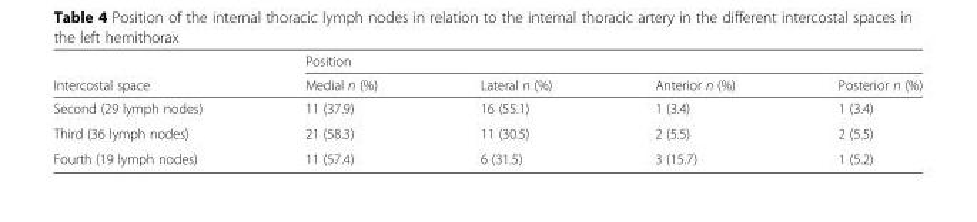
<table><thead><tr><td rowspan="2">Intercostal space</td><td colspan="4">Position</td></tr><tr><td>Medial n (%)</td><td>Lateral n (%)</td><td>Anterior n (%)</td><td>Posterior n (%)</td></tr></thead><tbody><tr><td>Second (29 lymph nodes)</td><td>11 (37.9)</td><td>16 (55.1)</td><td>1 (3.4)</td><td>1 (3.4)</td></tr><tr><td>Third (36 lymph nodes)</td><td>21 (58.3)</td><td>11 (30.5)</td><td>2 (5.5)</td><td>2 (5.5)</td></tr><tr><td>Fourth (19 lymph nodes)</td><td>11 (57.4)</td><td>6 (31.5)</td><td>3 (15.7)</td><td>1 (5.2)</td></tr></tbody></table>